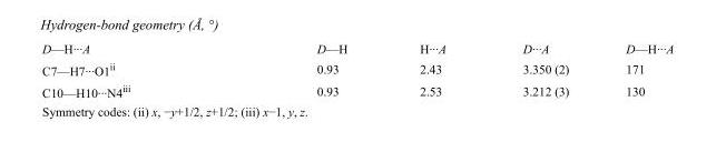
<table><tbody><tr><td>D—H···A</td><td>D—H</td><td>H···A</td><td>D···A</td><td>D—H···A</td></tr><tr><td>C7—H7···O1<sup>ii</sup></td><td>0.93</td><td>2.43</td><td>3.350 (2)</td><td>171</td></tr><tr><td>C10—H10···N4<sup>iii</sup></td><td>0.93</td><td>2.53</td><td>3.212 (3)</td><td>130</td></tr></tbody></table>